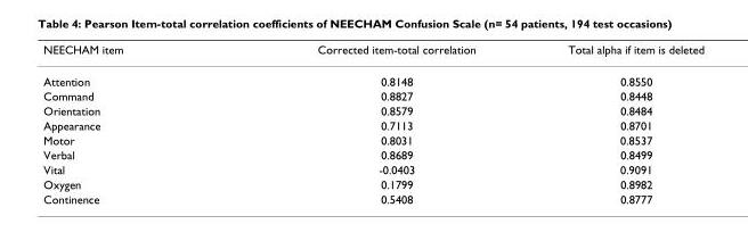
<table><thead><tr><td>NEECHAM item</td><td>Corrected item-total correlation</td><td>Total alpha if item is deleted</td></tr></thead><tbody><tr><td>Attention</td><td>0.8148</td><td>0.8550</td></tr><tr><td>Command</td><td>0.8827</td><td>0.8448</td></tr><tr><td>Orientation</td><td>0.8579</td><td>0.8484</td></tr><tr><td>Appearance</td><td>0.7113</td><td>0.8701</td></tr><tr><td>Motor</td><td>0.8031</td><td>0.8537</td></tr><tr><td>Verbal</td><td>0.8689</td><td>0.8499</td></tr><tr><td>Vital</td><td>-0.0403</td><td>0.9091</td></tr><tr><td>Oxygen</td><td>0.1799</td><td>0.8982</td></tr><tr><td>Continence</td><td>0.5408</td><td>0.8777</td></tr></tbody></table>